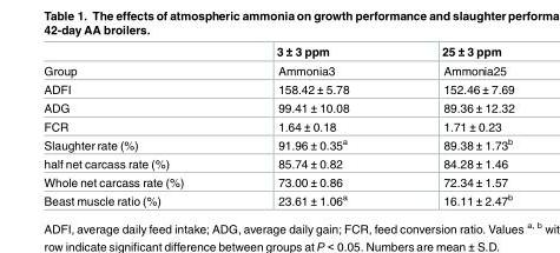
<table><thead><tr><td></td><td>3 ± 3 ppm</td><td>25 ± 3 ppm</td></tr></thead><tbody><tr><td>Group</td><td>Ammonia3</td><td>Ammonia25</td></tr><tr><td>ADFI</td><td>158.42 ± 5.78</td><td>152.46 ± 7.69</td></tr><tr><td>ADG</td><td>99.41 ± 10.08</td><td>89.36 ± 12.32</td></tr><tr><td>FCR</td><td>1.64 ± 0.18</td><td>1.71 ± 0.23</td></tr><tr><td>Slaughter rate (%)</td><td>91.96 ± 0.35<sup>a</sup></td><td>89.38 ± 1.73<sup>b</sup></td></tr><tr><td>half net carcass rate (%)</td><td>85.74 ± 0.82</td><td>84.28 ± 1.46</td></tr><tr><td>Whole net carcass rate (%)</td><td>73.00 ± 0.86</td><td>72.34 ± 1.57</td></tr><tr><td>Beast muscle ratio (%)</td><td>23.61 ± 1.06<sup>a</sup></td><td>16.11 ± 2.47<sup>b</sup></td></tr></tbody></table>